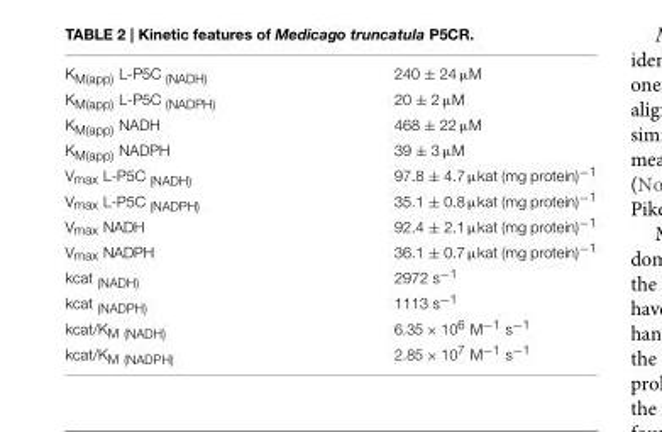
<table><tbody><tr><td>K<sub>M(app)</sub> L-P5C <sub>(NADH)</sub></td><td>240 ± 24 µM</td></tr><tr><td>K<sub>M(app)</sub> L-P5C <sub>(NADPH)</sub></td><td>20 ± 2 µM</td></tr><tr><td>K<sub>M(app)</sub> NADH</td><td>468 ± 22 µM</td></tr><tr><td>K<sub>M(app)</sub> NADPH</td><td>39 ± 3 µM</td></tr><tr><td>V<sub>max</sub> L-P5C <sub>(NADH)</sub></td><td>97.8 ± 4.7 µkat (mg protein)<sup>−1</sup></td></tr><tr><td>V<sub>max</sub> L-P5C <sub>(NADPH)</sub></td><td>35.1 ± 0.8 µkat (mg protein)<sup>−1</sup></td></tr><tr><td>V<sub>max</sub> NADH</td><td>92.4 ± 2.1 µkat (mg protein)<sup>−1</sup></td></tr><tr><td>V<sub>max</sub> NADPH</td><td>36.1 ± 0.7 µkat (mg protein)<sup>−1</sup></td></tr><tr><td>kcat <sub>(NADH)</sub></td><td>2972 s<sup>−1</sup></td></tr><tr><td>kcat <sub>(NADPH)</sub></td><td>1113 s<sup>−1</sup></td></tr><tr><td>kcat/K<sub>M (NADH)</sub></td><td>6.35 × 10<sup>6</sup> M<sup>−1</sup> s<sup>−1</sup></td></tr><tr><td>kcat/K<sub>M (NADPH)</sub></td><td>2.85 × 10<sup>7</sup> M<sup>−1</sup> s<sup>−1</sup></td></tr></tbody></table>